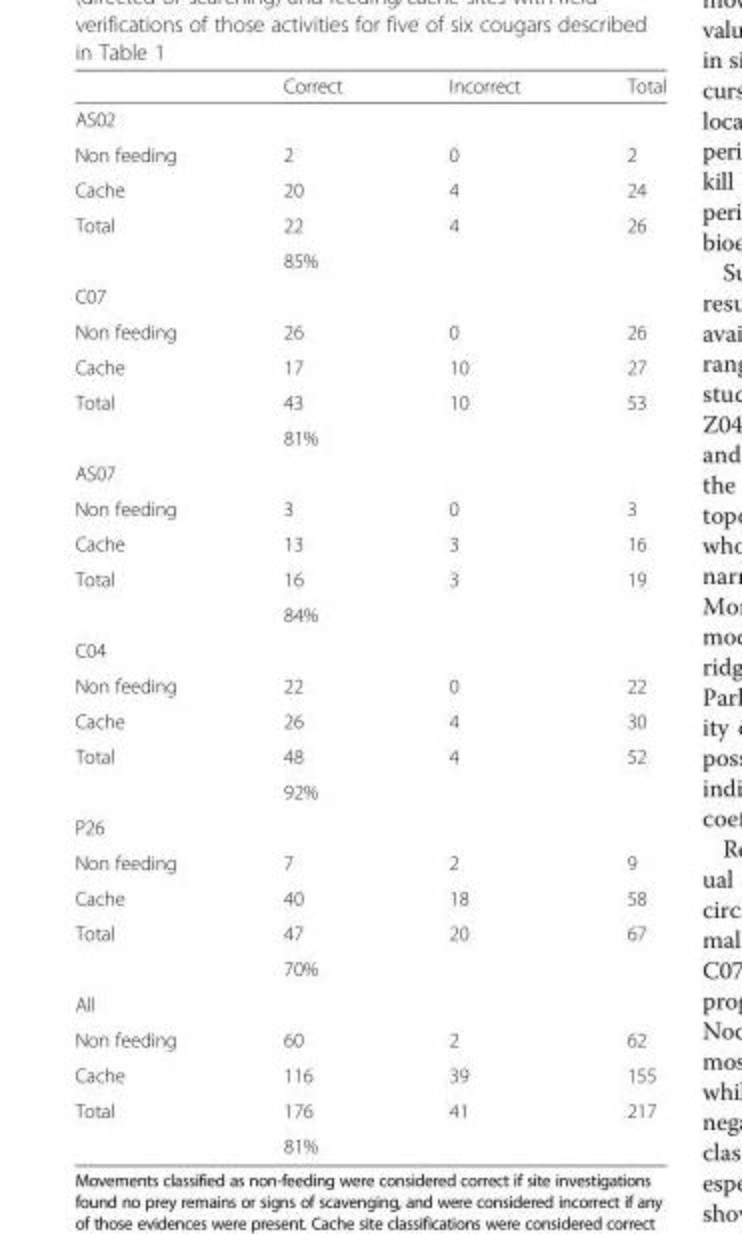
<table><thead><tr><td></td><td>Correct</td><td>Incorrect</td><td>Total</td></tr></thead><tbody><tr><td colspan="4">AS02</td></tr><tr><td>Non feeding</td><td>2</td><td>0</td><td>2</td></tr><tr><td>Cache</td><td>20</td><td>4</td><td>24</td></tr><tr><td rowspan="2">Total</td><td>22</td><td>4</td><td>26</td></tr><tr><td>85%</td><td></td><td></td></tr><tr><td colspan="4">C07</td></tr><tr><td>Non feeding</td><td>26</td><td>0</td><td>26</td></tr><tr><td>Cache</td><td>17</td><td>10</td><td>27</td></tr><tr><td rowspan="2">Total</td><td>43</td><td>10</td><td>53</td></tr><tr><td>81%</td><td></td><td></td></tr><tr><td colspan="4">AS07</td></tr><tr><td>Non feeding</td><td>3</td><td>0</td><td>3</td></tr><tr><td>Cache</td><td>13</td><td>3</td><td>16</td></tr><tr><td rowspan="2">Total</td><td>16</td><td>3</td><td>19</td></tr><tr><td>84%</td><td></td><td></td></tr><tr><td colspan="4">C04</td></tr><tr><td>Non feeding</td><td>22</td><td>0</td><td>22</td></tr><tr><td>Cache</td><td>26</td><td>4</td><td>30</td></tr><tr><td rowspan="2">Total</td><td>48</td><td>4</td><td>52</td></tr><tr><td>92%</td><td></td><td></td></tr><tr><td colspan="4">P26</td></tr><tr><td>Non feeding</td><td>7</td><td>2</td><td>9</td></tr><tr><td>Cache</td><td>40</td><td>18</td><td>58</td></tr><tr><td rowspan="2">Total</td><td>47</td><td>20</td><td>67</td></tr><tr><td>70%</td><td></td><td></td></tr><tr><td colspan="4">All</td></tr><tr><td>Non feeding</td><td>60</td><td>2</td><td>62</td></tr><tr><td>Cache</td><td>116</td><td>39</td><td>155</td></tr><tr><td rowspan="2">Total</td><td>176</td><td>41</td><td>217</td></tr><tr><td>81%</td><td></td><td></td></tr></tbody></table>